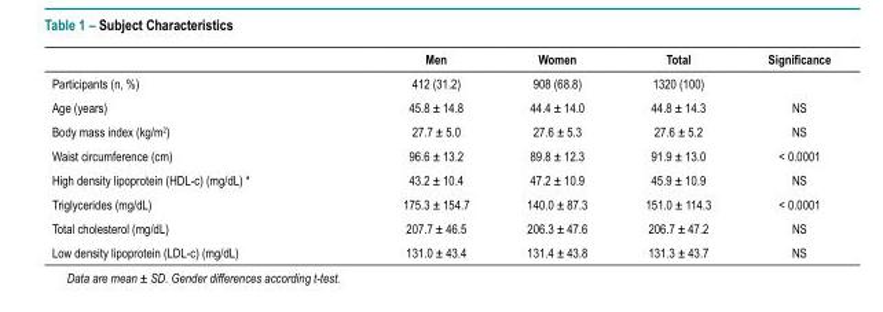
<table><thead><tr><td></td><td>Men</td><td>Women</td><td>Total</td><td>Significance</td></tr></thead><tbody><tr><td>Participants (n, %)</td><td>412 (31.2)</td><td>908 (68.8)</td><td>1320 (100)</td><td></td></tr><tr><td>Age (years)</td><td>45.8 ± 14.8</td><td>44.4 ± 14.0</td><td>44.8 ± 14.3</td><td>NS</td></tr><tr><td>Body mass index (kg/m<sup>2</sup>)</td><td>27.7 ± 5.0</td><td>27.6 ± 5.3</td><td>27.6 ± 5.2</td><td>NS</td></tr><tr><td>Waist circumference (cm)</td><td>96.6 ± 13.2</td><td>89.8 ± 12.3</td><td>91.9 ± 13.0</td><td>&lt; 0.0001</td></tr><tr><td>High density lipoprotein (HDL-c) (mg/dL) *</td><td>43.2 ± 10.4</td><td>47.2 ± 10.9</td><td>45.9 ± 10.9</td><td>NS</td></tr><tr><td>Triglycerides (mg/dL)</td><td>175.3 ± 154.7</td><td>140.0 ± 87.3</td><td>151.0 ± 114.3</td><td>&lt; 0.0001</td></tr><tr><td>Total cholesterol (mg/dL)</td><td>207.7 ± 46.5</td><td>206.3 ± 47.6</td><td>206.7 ± 47.2</td><td>NS</td></tr><tr><td>Low density lipoprotein (LDL-c) (mg/dL)</td><td>131.0 ± 43.4</td><td>131.4 ± 43.8</td><td>131.3 ± 43.7</td><td>NS</td></tr></tbody></table>